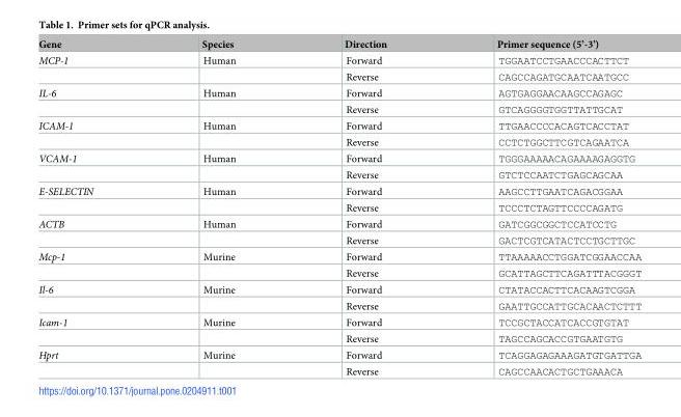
<table><thead><tr><td>Gene</td><td>Species</td><td>Direction</td><td>Primer sequence (5’-3’)</td></tr></thead><tbody><tr><td rowspan="2">MCP-1</td><td>Human</td><td>Forward</td><td>TGGAATCCTGAACCCACTTCT</td></tr><tr><td></td><td>Reverse</td><td>CAGCCAGATGCAATCAATGCC</td></tr><tr><td rowspan="2">IL-6</td><td>Human</td><td>Forward</td><td>AGTGAGGAACAAGCCAGAGC</td></tr><tr><td></td><td>Reverse</td><td>GTCAGGGGTGGTTATTGCAT</td></tr><tr><td rowspan="2">ICAM-1</td><td>Human</td><td>Forward</td><td>TTGAACCCCACAGTCACCTAT</td></tr><tr><td></td><td>Reverse</td><td>CCTCTGGCTTCGTCAGAATCA</td></tr><tr><td rowspan="2">VCAM-1</td><td>Human</td><td>Forward</td><td>TGGGAAAAACAGAAAAGAGGTG</td></tr><tr><td></td><td>Reverse</td><td>GTCTCCAATCTGAGCAGCAA</td></tr><tr><td rowspan="2">E-SELECTIN</td><td>Human</td><td>Forward</td><td>AAGCCTTGAATCAGACGGAA</td></tr><tr><td></td><td>Reverse</td><td>TCCCTCTAGTTCCCCAGATG</td></tr><tr><td rowspan="2">ACTB</td><td>Human</td><td>Forward</td><td>GATCGGCGGCTCCATCCTG</td></tr><tr><td></td><td>Reverse</td><td>GACTCGTCATACTCCTGCTTGC</td></tr><tr><td rowspan="2">Mcp-1</td><td>Murine</td><td>Forward</td><td>TTAAAAACCTGGATCGGAACCAA</td></tr><tr><td></td><td>Reverse</td><td>GCATTAGCTTCAGATTTACGGGT</td></tr><tr><td rowspan="2">Il-6</td><td>Murine</td><td>Forward</td><td>CTATACCACTTCACAAGTCGGA</td></tr><tr><td></td><td>Reverse</td><td>GAATTGCCATTGCACAACTCTTT</td></tr><tr><td rowspan="2">Icam-1</td><td>Murine</td><td>Forward</td><td>TCCGCTACCATCACCGTGTAT</td></tr><tr><td></td><td>Reverse</td><td>TAGCCAGCACCGTGAATGTG</td></tr><tr><td rowspan="2">Hprt</td><td>Murine</td><td>Forward</td><td>TCAGGAGAGAAAGATGTGATTGA</td></tr><tr><td></td><td>Reverse</td><td>CAGCCAACACTGCTGAAACA</td></tr></tbody></table>